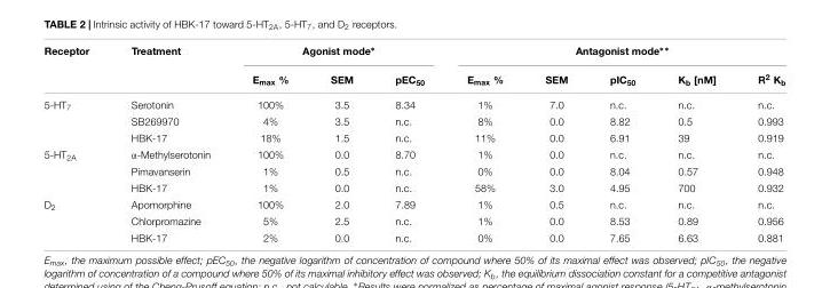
<table><thead><tr><td rowspan="2">Receptor</td><td rowspan="2">Treatment</td><td colspan="3">Agonist mode∗</td><td colspan="5">Antagonist mode∗∗</td></tr><tr><td>E<sub>max</sub> %</td><td>SEM</td><td>pEC<sub>50</sub></td><td>E<sub>max</sub> %</td><td>SEM</td><td>pIC<sub>50</sub></td><td>K<sub>b</sub> [nM]</td><td>R<sup>2</sup> K<sub>b</sub></td></tr></thead><tbody><tr><td rowspan="3">5-HT<sub>7</sub></td><td>Serotonin</td><td>100%</td><td>3.5</td><td>8.34</td><td>1%</td><td>7.0</td><td>n.c.</td><td>n.c.</td><td>n.c.</td></tr><tr><td>SB269970</td><td>4%</td><td>3.5</td><td>n.c.</td><td>8%</td><td>0.0</td><td>8.82</td><td>0.5</td><td>0.993</td></tr><tr><td>HBK-17</td><td>18%</td><td>1.5</td><td>n.c.</td><td>11%</td><td>0.0</td><td>6.91</td><td>39</td><td>0.919</td></tr><tr><td rowspan="3">5-HT<sub>2A</sub></td><td>α-Methylserotonin</td><td>100%</td><td>0.0</td><td>8.70</td><td>1%</td><td>0.0</td><td>n.c.</td><td>n.c.</td><td>n.c.</td></tr><tr><td>Pimavanserin</td><td>1%</td><td>0.5</td><td>n.c.</td><td>0%</td><td>0.0</td><td>8.04</td><td>0.57</td><td>0.948</td></tr><tr><td>HBK-17</td><td>1%</td><td>0.0</td><td>n.c.</td><td>58%</td><td>3.0</td><td>4.95</td><td>700</td><td>0.932</td></tr><tr><td rowspan="3">D<sub>2</sub></td><td>Apomorphine</td><td>100%</td><td>2.0</td><td>7.89</td><td>1%</td><td>0.5</td><td>n.c.</td><td>n.c.</td><td>n.c.</td></tr><tr><td>Chlorpromazine</td><td>5%</td><td>2.5</td><td>n.c.</td><td>1%</td><td>0.0</td><td>8.53</td><td>0.89</td><td>0.956</td></tr><tr><td>HBK-17</td><td>2%</td><td>0.0</td><td>n.c.</td><td>0%</td><td>0.0</td><td>7.65</td><td>6.63</td><td>0.881</td></tr></tbody></table>